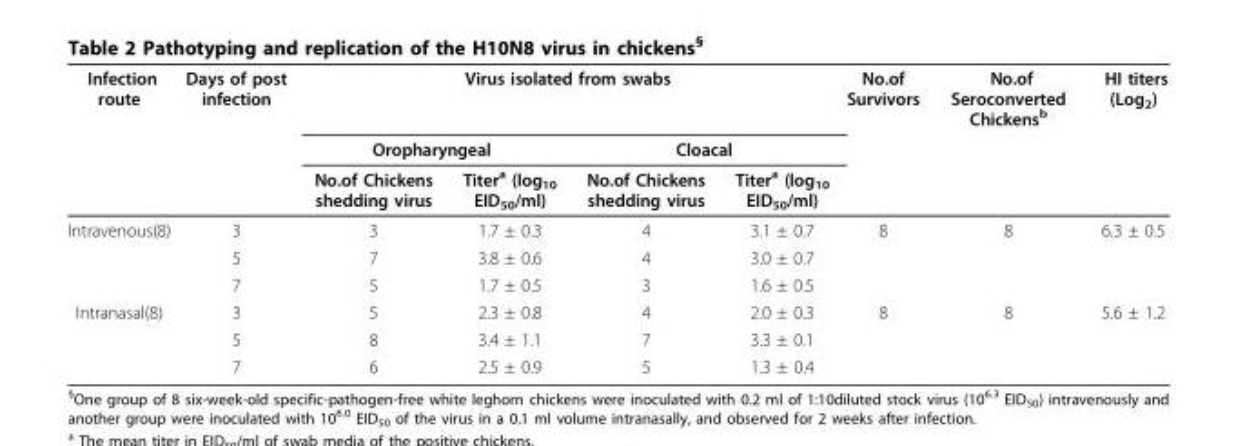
<table><thead><tr><td rowspan="3">Infection route</td><td rowspan="3">Days of post infection</td><td colspan="4">Virus isolated from swabs</td><td rowspan="3">No.of Survivors</td><td rowspan="3">No.of Seroconverted Chickens<sup>b</sup></td><td rowspan="3">HI titers (Log<sub>2</sub>)</td></tr><tr><td colspan="2">Oropharyngeal</td><td colspan="2">Cloacal</td></tr><tr><td>No.of Chickens shedding virus</td><td>Titer<sup>a</sup> (log<sub>10</sub> EID<sub>50</sub>/ml)</td><td>No.of Chickens shedding virus</td><td>Titer<sup>a</sup> (log<sub>10</sub> EID<sub>50</sub>/ml)</td></tr></thead><tbody><tr><td rowspan="3">Intravenous(8)</td><td>3</td><td>3</td><td>1.7 ± 0.3</td><td>4</td><td>3.1 ± 0.7</td><td>8</td><td>8</td><td>6.3 ± 0.5</td></tr><tr><td>5</td><td>7</td><td>3.8 ± 0.6</td><td>4</td><td>3.0 ± 0.7</td><td></td><td></td><td></td></tr><tr><td>7</td><td>5</td><td>1.7 ± 0.5</td><td>3</td><td>1.6 ± 0.5</td><td></td><td></td><td></td></tr><tr><td rowspan="3">Intranasal(8)</td><td>3</td><td>5</td><td>2.3 ± 0.8</td><td>4</td><td>2.0 ± 0.3</td><td>8</td><td>8</td><td>5.6 ± 1.2</td></tr><tr><td>5</td><td>8</td><td>3.4 ± 1.1</td><td>7</td><td>3.3 ± 0.1</td><td></td><td></td><td></td></tr><tr><td>7</td><td>6</td><td>2.5 ± 0.9</td><td>5</td><td>1.3 ± 0.4</td><td></td><td></td><td></td></tr></tbody></table>